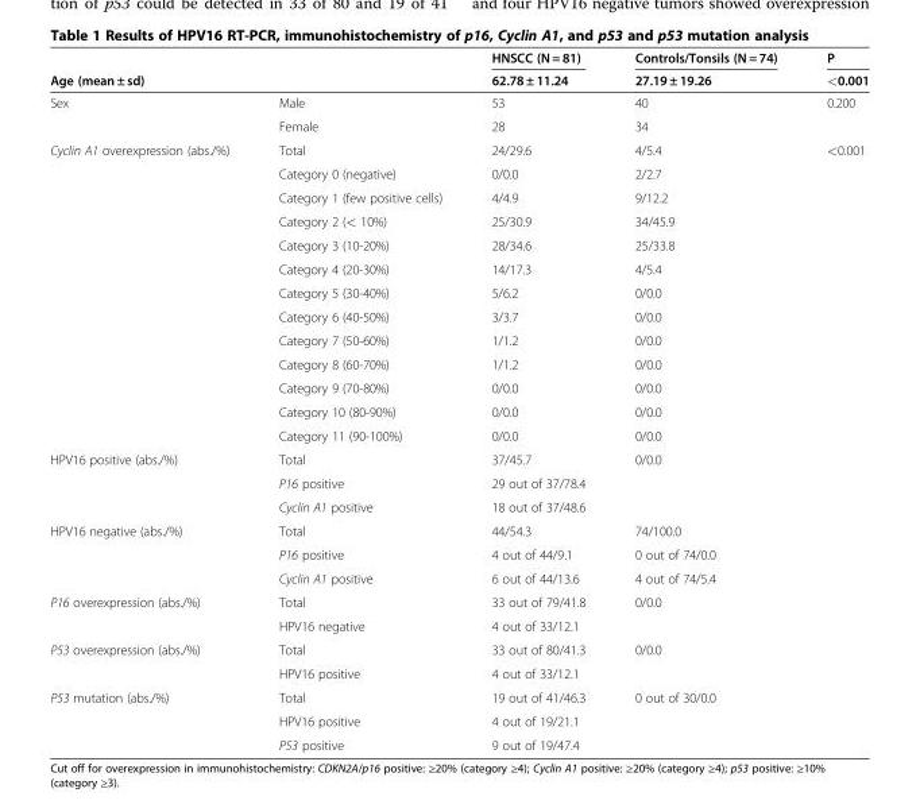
<table><thead><tr><td></td><td></td><td rowspan="2">HNSCC (N = 81) 62.78 ± 11.24</td><td rowspan="2">Controls/Tonsils (N = 74) 27.19 ± 19.26</td><td rowspan="2">P &lt;0.001</td></tr><tr><td colspan="2">Age (mean ± sd)</td></tr></thead><tbody><tr><td rowspan="2">Sex</td><td>Male</td><td>53</td><td>40</td><td rowspan="2">0.200</td></tr><tr><td>Female</td><td>28</td><td>34</td></tr><tr><td rowspan="13">Cyclin A1 overexpression (abs./%)</td><td>Total</td><td>24/29.6</td><td>4/5.4</td><td>&lt;0.001</td></tr><tr><td>Category 0 (negative)</td><td>0/0.0</td><td>2/2.7</td><td rowspan="12"></td></tr><tr><td>Category 1 (few positive cells)</td><td>4/4.9</td><td>9/12.2</td></tr><tr><td>Category 2 (&lt; 10%)</td><td>25/30.9</td><td>34/45.9</td></tr><tr><td>Category 3 (10-20%)</td><td>28/34.6</td><td>25/33.8</td></tr><tr><td>Category 4 (20-30%)</td><td>14/17.3</td><td>4/5.4</td></tr><tr><td>Category 5 (30-40%)</td><td>5/6.2</td><td>0/0.0</td></tr><tr><td>Category 6 (40-50%)</td><td>3/3.7</td><td>0/0.0</td></tr><tr><td>Category 7 (50-60%)</td><td>1/1.2</td><td>0/0.0</td></tr><tr><td>Category 8 (60-70%)</td><td>1/1.2</td><td>0/0.0</td></tr><tr><td>Category 9 (70-80%)</td><td>0/0.0</td><td>0/0.0</td></tr><tr><td>Category 10 (80-90%)</td><td>0/0.0</td><td>0/0.0</td></tr><tr><td>Category 11 (90-100%)</td><td>0/0.0</td><td>0/0.0</td></tr><tr><td rowspan="3">HPV16 positive (abs./%)</td><td>Total</td><td>37/45.7</td><td>0/0.0</td><td rowspan="3"></td></tr><tr><td>P16 positive</td><td>29 out of 37/78.4</td><td></td></tr><tr><td>Cyclin A1 positive</td><td>18 out of 37/48.6</td><td></td></tr><tr><td rowspan="3">HPV16 negative (abs./%)</td><td>Total</td><td>44/54.3</td><td>74/100.0</td><td rowspan="3"></td></tr><tr><td>P16 positive</td><td>4 out of 44/9.1</td><td>0 out of 74/0.0</td></tr><tr><td>Cyclin A1 positive</td><td>6 out of 44/13.6</td><td>4 out of 74/5.4</td></tr><tr><td rowspan="2">P16 overexpression (abs./%)</td><td>Total</td><td>33 out of 79/41.8</td><td>0/0.0</td><td rowspan="2"></td></tr><tr><td>HPV16 negative</td><td>4 out of 33/12.1</td><td></td></tr><tr><td rowspan="2">P53 overexpression (abs./%)</td><td>Total</td><td>33 out of 80/41.3</td><td>0/0.0</td><td rowspan="2"></td></tr><tr><td>HPV16 positive</td><td>4 out of 33/12.1</td><td></td></tr><tr><td rowspan="3">P53 mutation (abs./%)</td><td>Total</td><td>19 out of 41/46.3</td><td>0 out of 30/0.0</td><td rowspan="3"></td></tr><tr><td>HPV16 positive</td><td>4 out of 19/21.1</td><td></td></tr><tr><td>P53 positive</td><td>9 out of 19/47.4</td><td></td></tr></tbody></table>